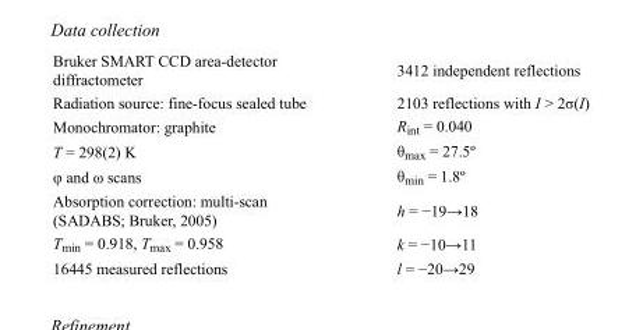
<table><tbody><tr><td>Bruker SMART CCD area-detector diffractometer</td><td>3412 independent reflections</td></tr><tr><td>Radiation source: fine-focus sealed tube</td><td>2103 reflections with I &gt; 2σ(I)</td></tr><tr><td>Monochromator: graphite</td><td>R<sub>int</sub> = 0.040</td></tr><tr><td>T = 298(2) K</td><td>θ<sub>max</sub> = 27.5º</td></tr><tr><td>φ and ω scans</td><td>θ<sub>min</sub> = 1.8º</td></tr><tr><td>Absorption correction: multi-scan (SADABS; Bruker, 2005)</td><td>h = −19→18</td></tr><tr><td>T<sub>min</sub> = 0.918, T<sub>max</sub> = 0.958</td><td>k = −10→11</td></tr><tr><td>16445 measured reflections</td><td>l = −20→29</td></tr></tbody></table>